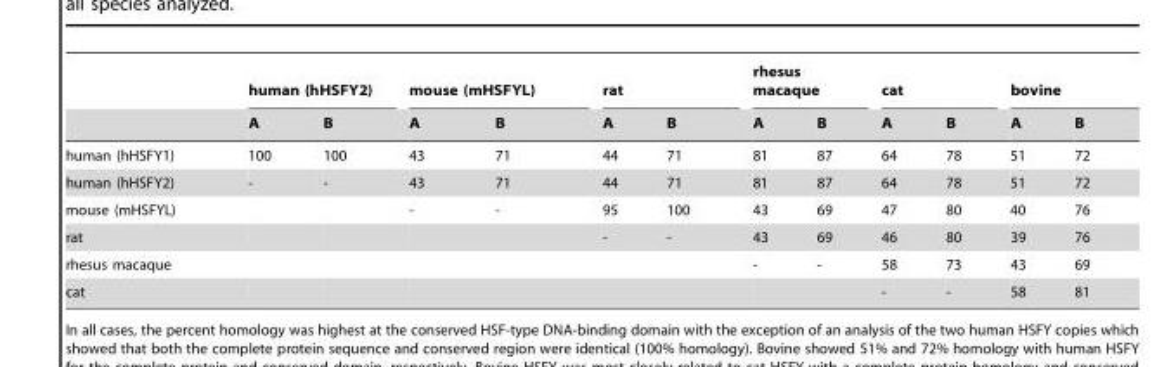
<table><thead><tr><td rowspan="2"></td><td colspan="2">human (hHSFY2)</td><td colspan="2">mouse (mHSFYL)</td><td colspan="2">rat</td><td colspan="2">rhesus macaque</td><td colspan="2">cat</td><td colspan="2">bovine</td></tr><tr><td>A</td><td>B</td><td>A</td><td>B</td><td>A</td><td>B</td><td>A</td><td>B</td><td>A</td><td>B</td><td>A</td><td>B</td></tr></thead><tbody><tr><td>human (hHSFY1)</td><td>100</td><td>100</td><td>43</td><td>71</td><td>44</td><td>71</td><td>81</td><td>87</td><td>64</td><td>78</td><td>51</td><td>72</td></tr><tr><td>human (hHSFY2)</td><td>-</td><td>-</td><td>43</td><td>71</td><td>44</td><td>71</td><td>81</td><td>87</td><td>64</td><td>78</td><td>51</td><td>72</td></tr><tr><td>mouse (mHSFYL)</td><td></td><td></td><td>-</td><td>-</td><td>95</td><td>100</td><td>43</td><td>69</td><td>47</td><td>80</td><td>40</td><td>76</td></tr><tr><td>rat</td><td></td><td></td><td></td><td></td><td>-</td><td>-</td><td>43</td><td>69</td><td>46</td><td>80</td><td>39</td><td>76</td></tr><tr><td>rhesus macaque</td><td></td><td></td><td></td><td></td><td></td><td></td><td>-</td><td>-</td><td>58</td><td>73</td><td>43</td><td>69</td></tr><tr><td>cat</td><td></td><td></td><td></td><td></td><td></td><td></td><td></td><td></td><td>-</td><td>-</td><td>58</td><td>81</td></tr></tbody></table>